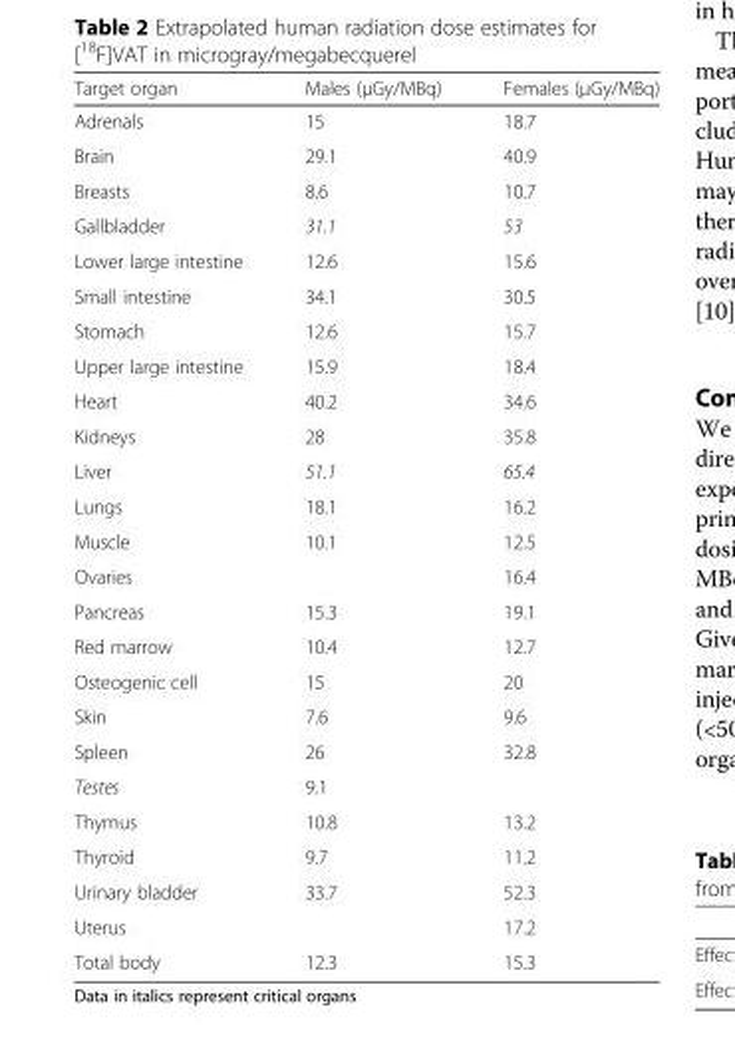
<table><thead><tr><td>Target organ</td><td>Males (μGy/MBq)</td><td>Females (μGy/MBq)</td></tr></thead><tbody><tr><td>Adrenals</td><td>15</td><td>18.7</td></tr><tr><td>Brain</td><td>29.1</td><td>40.9</td></tr><tr><td>Breasts</td><td>8.6</td><td>10.7</td></tr><tr><td>Gallbladder</td><td>31.1</td><td>53</td></tr><tr><td>Lower large intestine</td><td>12.6</td><td>15.6</td></tr><tr><td>Small intestine</td><td>34.1</td><td>30.5</td></tr><tr><td>Stomach</td><td>12.6</td><td>15.7</td></tr><tr><td>Upper large intestine</td><td>15.9</td><td>18.4</td></tr><tr><td>Heart</td><td>40.2</td><td>34.6</td></tr><tr><td>Kidneys</td><td>28</td><td>35.8</td></tr><tr><td>Liver</td><td>51.1</td><td>65.4</td></tr><tr><td>Lungs</td><td>18.1</td><td>16.2</td></tr><tr><td>Muscle</td><td>10.1</td><td>12.5</td></tr><tr><td>Ovaries</td><td></td><td>16.4</td></tr><tr><td>Pancreas</td><td>15.3</td><td>19.1</td></tr><tr><td>Red marrow</td><td>10.4</td><td>12.7</td></tr><tr><td>Osteogenic cell</td><td>15</td><td>20</td></tr><tr><td>Skin</td><td>7.6</td><td>9.6</td></tr><tr><td>Spleen</td><td>26</td><td>32.8</td></tr><tr><td>Testes</td><td>9.1</td><td></td></tr><tr><td>Thymus</td><td>10.8</td><td>13.2</td></tr><tr><td>Thyroid</td><td>9.7</td><td>11.2</td></tr><tr><td>Urinary bladder</td><td>33.7</td><td>52.3</td></tr><tr><td>Uterus</td><td></td><td>17.2</td></tr><tr><td>Total body</td><td>12.3</td><td>15.3</td></tr></tbody></table>